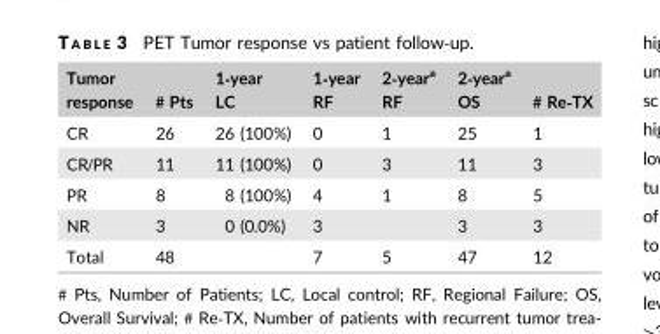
<table><thead><tr><td>Tumor response</td><td># Pts</td><td>1‐year LC</td><td>1‐year RF</td><td>2‐year<sup>a</sup> RF</td><td>2‐year<sup>a</sup> OS</td><td># Re‐TX</td></tr></thead><tbody><tr><td>CR</td><td>26</td><td>26 (100%)</td><td>0</td><td>1</td><td>25</td><td>1</td></tr><tr><td>CR/PR</td><td>11</td><td>11 (100%)</td><td>0</td><td>3</td><td>11</td><td>3</td></tr><tr><td>PR</td><td>8</td><td>8 (100%)</td><td>4</td><td>1</td><td>8</td><td>5</td></tr><tr><td>NR</td><td>3</td><td>0 (0.0%)</td><td>3</td><td></td><td>3</td><td>3</td></tr><tr><td>Total</td><td>48</td><td></td><td>7</td><td>5</td><td>47</td><td>12</td></tr></tbody></table>